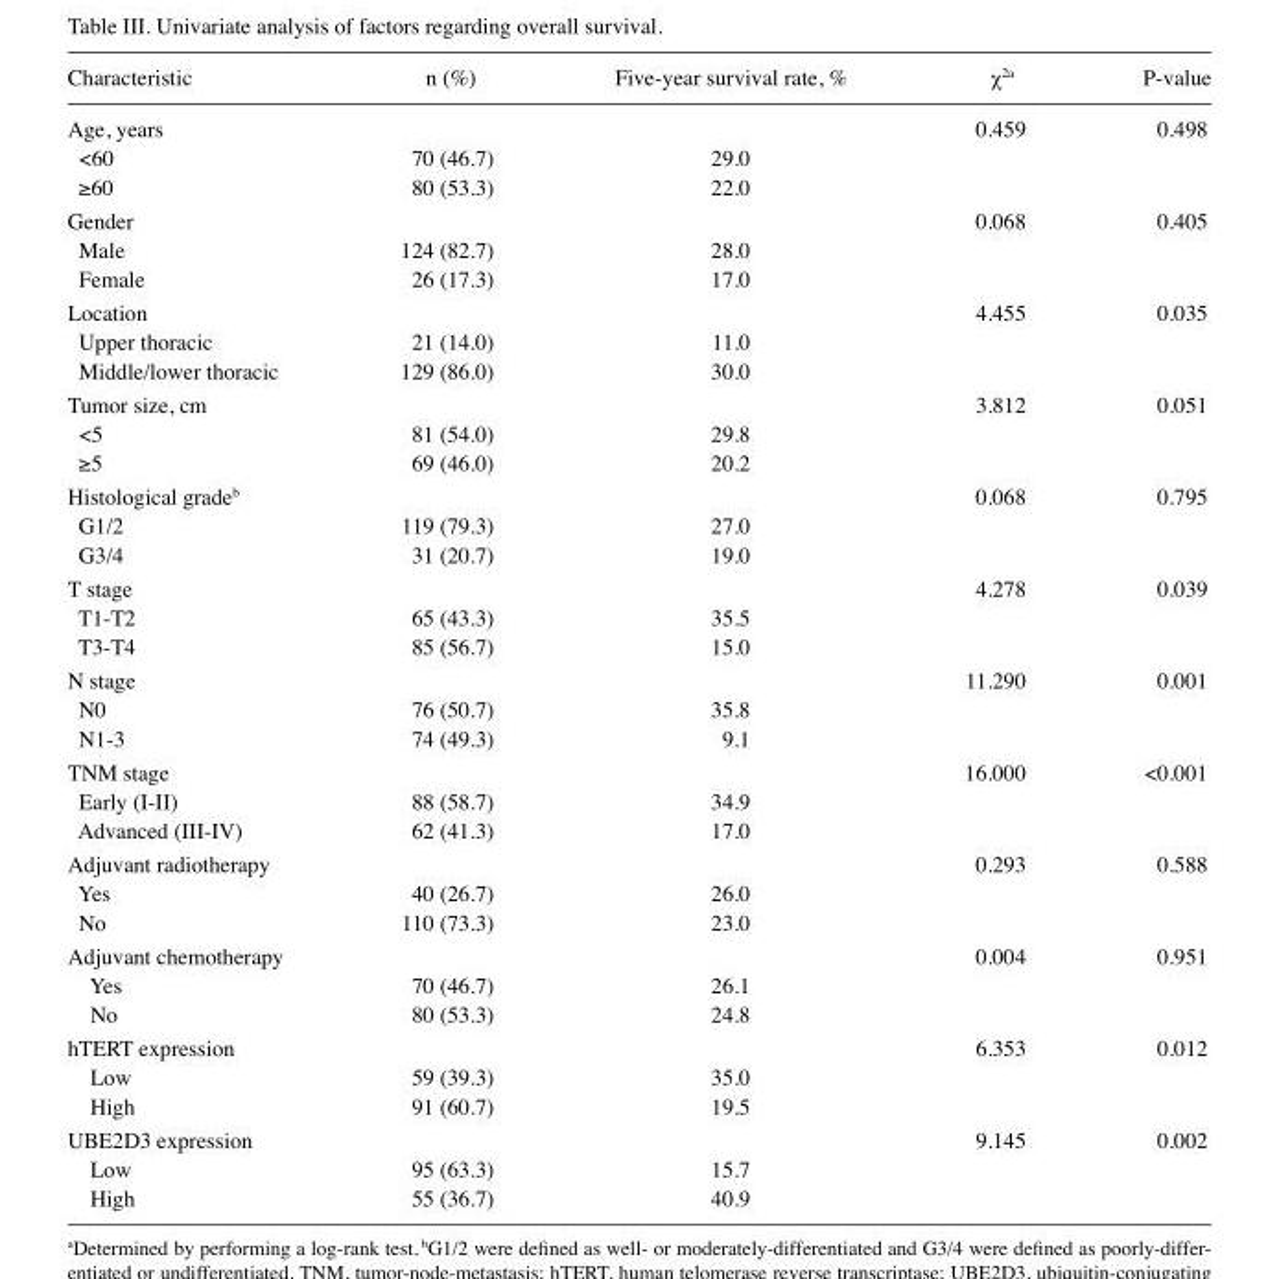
<table><thead><tr><td>Characteristic</td><td>n (%)</td><td>Five-year survival rate, %</td><td>χ<sup>2a</sup></td><td>P-value</td></tr></thead><tbody><tr><td>Age, years</td><td></td><td></td><td>0.459</td><td>0.498</td></tr><tr><td>&lt;60</td><td>70 (46.7)</td><td>29.0</td><td></td><td></td></tr><tr><td>≥60</td><td>80 (53.3)</td><td>22.0</td><td></td><td></td></tr><tr><td>Gender</td><td></td><td></td><td>0.068</td><td>0.405</td></tr><tr><td>Male</td><td>124 (82.7)</td><td>28.0</td><td></td><td></td></tr><tr><td>Female</td><td>26 (17.3)</td><td>17.0</td><td></td><td></td></tr><tr><td>Location</td><td></td><td></td><td>4.455</td><td>0.035</td></tr><tr><td>Upper thoracic</td><td>21 (14.0)</td><td>11.0</td><td></td><td></td></tr><tr><td>Middle/lower thoracic</td><td>129 (86.0)</td><td>30.0</td><td></td><td></td></tr><tr><td>Tumor size, cm</td><td></td><td></td><td>3.812</td><td>0.051</td></tr><tr><td>&lt;5</td><td>81 (54.0)</td><td>29.8</td><td></td><td></td></tr><tr><td>≥5</td><td>69 (46.0)</td><td>20.2</td><td></td><td></td></tr><tr><td>Histological grade<sup>b</sup></td><td></td><td></td><td>0.068</td><td>0.795</td></tr><tr><td>G1/2</td><td>119 (79.3)</td><td>27.0</td><td></td><td></td></tr><tr><td>G3/4</td><td>31 (20.7)</td><td>19.0</td><td></td><td></td></tr><tr><td>T stage</td><td></td><td></td><td>4.278</td><td>0.039</td></tr><tr><td>T1-T2</td><td>65 (43.3)</td><td>35.5</td><td></td><td></td></tr><tr><td>T3-T4</td><td>85 (56.7)</td><td>15.0</td><td></td><td></td></tr><tr><td>N stage</td><td></td><td></td><td>11.290</td><td>0.001</td></tr><tr><td>N0</td><td>76 (50.7)</td><td>35.8</td><td></td><td></td></tr><tr><td>N1-3</td><td>74 (49.3)</td><td>9.1</td><td></td><td></td></tr><tr><td>TNM stage</td><td></td><td></td><td>16.000</td><td>&lt;0.001</td></tr><tr><td>Early (I-II)</td><td>88 (58.7)</td><td>34.9</td><td></td><td></td></tr><tr><td>Advanced (III-IV)</td><td>62 (41.3)</td><td>17.0</td><td></td><td></td></tr><tr><td>Adjuvant radiotherapy</td><td></td><td></td><td>0.293</td><td>0.588</td></tr><tr><td>Yes</td><td>40 (26.7)</td><td>26.0</td><td></td><td></td></tr><tr><td>No</td><td>110 (73.3)</td><td>23.0</td><td></td><td></td></tr><tr><td>Adjuvant chemotherapy</td><td></td><td></td><td>0.004</td><td>0.951</td></tr><tr><td>Yes</td><td>70 (46.7)</td><td>26.1</td><td></td><td></td></tr><tr><td>No</td><td>80 (53.3)</td><td>24.8</td><td></td><td></td></tr><tr><td>hTERT expression</td><td></td><td></td><td>6.353</td><td>0.012</td></tr><tr><td>Low</td><td>59 (39.3)</td><td>35.0</td><td></td><td></td></tr><tr><td>High</td><td>91 (60.7)</td><td>19.5</td><td></td><td></td></tr><tr><td>UBE2D3 expression</td><td></td><td></td><td>9.145</td><td>0.002</td></tr><tr><td>Low</td><td>95 (63.3)</td><td>15.7</td><td></td><td></td></tr><tr><td>High</td><td>55 (36.7)</td><td>40.9</td><td></td><td></td></tr></tbody></table>